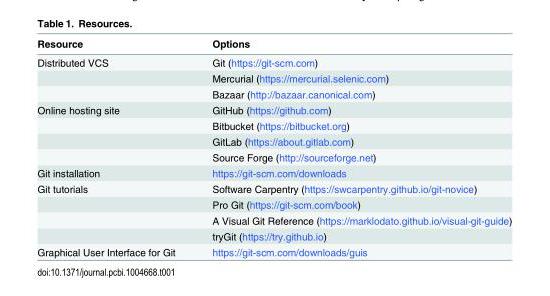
<table><thead><tr><td>Resource</td><td>Options</td></tr></thead><tbody><tr><td rowspan="3">Distributed VCS</td><td>Git (https://git-scm.com)</td></tr><tr><td>Mercurial (https://mercurial.selenic.com)</td></tr><tr><td>Bazaar (http://bazaar.canonical.com)</td></tr><tr><td rowspan="4">Online hosting site</td><td>GitHub (https://github.com)</td></tr><tr><td>Bitbucket (https://bitbucket.org)</td></tr><tr><td>GitLab (https://about.gitlab.com)</td></tr><tr><td>Source Forge (http://sourceforge.net)</td></tr><tr><td>Git installation</td><td>https://git-scm.com/downloads</td></tr><tr><td rowspan="4">Git tutorials</td><td>Software Carpentry (https://swcarpentry.github.io/git-novice)</td></tr><tr><td>Pro Git (https://git-scm.com/book)</td></tr><tr><td>A Visual Git Reference (https://marklodato.github.io/visual-git-guide)</td></tr><tr><td>tryGit (https://try.github.io)</td></tr><tr><td>Graphical User Interface for Git</td><td>https://git-scm.com/downloads/guis</td></tr></tbody></table>